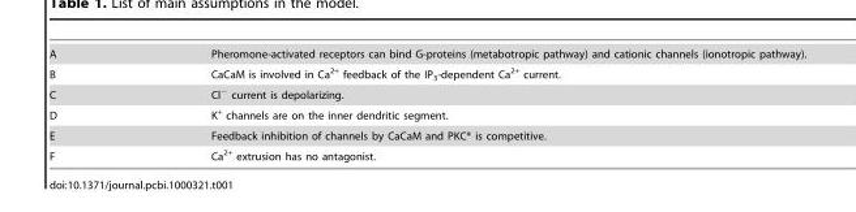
<table><tbody><tr><td>A</td><td>Pheromone-activated receptors can bind G-proteins (metabotropic pathway) and cationic channels (ionotropic pathway).</td></tr><tr><td>B</td><td>CaCaM is involved in Ca<sup>2+</sup> feedback of the IP<sub>3</sub>-dependent Ca<sup>2+</sup> current.</td></tr><tr><td>C</td><td>Cl<sup>−</sup> current is depolarizing.</td></tr><tr><td>D</td><td>K<sup>+</sup> channels are on the inner dendritic segment.</td></tr><tr><td>E</td><td>Feedback inhibition of channels by CaCaM and PKC* is competitive.</td></tr><tr><td>F</td><td>Ca<sup>2+</sup> extrusion has no antagonist.</td></tr></tbody></table>